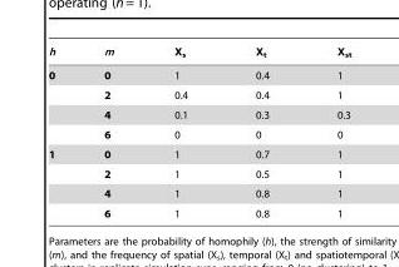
<table><thead><tr><td>h</td><td>m</td><td>X<sub>s</sub></td><td>X<sub>t</sub></td><td>X<sub>st</sub></td></tr></thead><tbody><tr><td rowspan="4">0</td><td>0</td><td>1</td><td>0.4</td><td>1</td></tr><tr><td>2</td><td>0.4</td><td>0.4</td><td>1</td></tr><tr><td>4</td><td>0.1</td><td>0.3</td><td>0.3</td></tr><tr><td>6</td><td>0</td><td>0</td><td>0</td></tr><tr><td rowspan="4">1</td><td>0</td><td>1</td><td>0.7</td><td>1</td></tr><tr><td>2</td><td>1</td><td>0.5</td><td>1</td></tr><tr><td>4</td><td>1</td><td>0.8</td><td>1</td></tr><tr><td>6</td><td>1</td><td>0.8</td><td>1</td></tr></tbody></table>